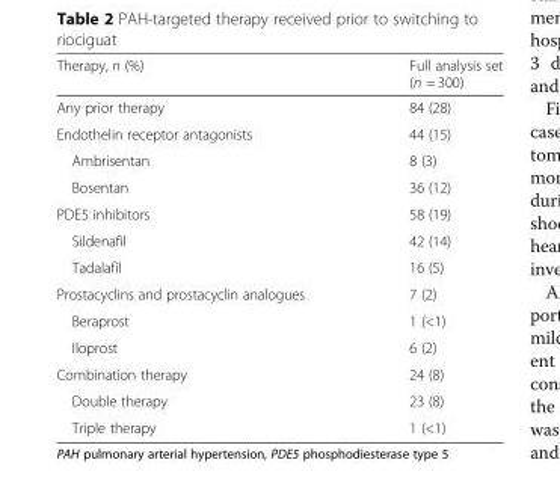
<table><thead><tr><td>Therapy, n (%)</td><td>Full analysis set (n = 300)</td></tr></thead><tbody><tr><td>Any prior therapy</td><td>84 (28)</td></tr><tr><td>Endothelin receptor antagonists</td><td>44 (15)</td></tr><tr><td>Ambrisentan</td><td>8 (3)</td></tr><tr><td>Bosentan</td><td>36 (12)</td></tr><tr><td>PDE5 inhibitors</td><td>58 (19)</td></tr><tr><td>Sildenafil</td><td>42 (14)</td></tr><tr><td>Tadalafil</td><td>16 (5)</td></tr><tr><td>Prostacyclins and prostacyclin analogues</td><td>7 (2)</td></tr><tr><td>Beraprost</td><td>1 (&lt;1)</td></tr><tr><td>Iloprost</td><td>6 (2)</td></tr><tr><td>Combination therapy</td><td>24 (8)</td></tr><tr><td>Double therapy</td><td>23 (8)</td></tr><tr><td>Triple therapy</td><td>1 (&lt;1)</td></tr></tbody></table>